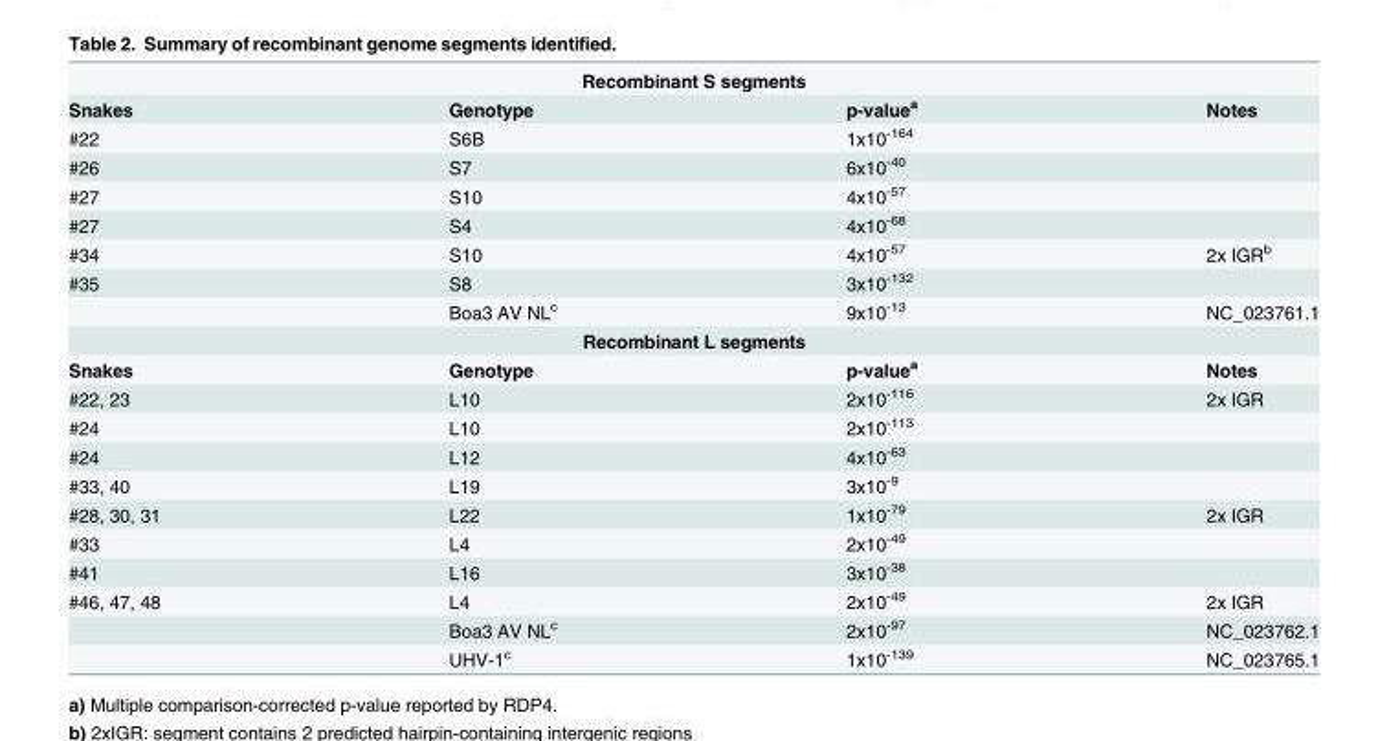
<table><tbody><tr><td colspan="4">Recombinant S segments</td></tr><tr><td>Snakes</td><td>Genotype</td><td>p-value<sup>a</sup></td><td>Notes</td></tr><tr><td>#22</td><td>S6B</td><td>1x10<sup>-164</sup></td><td></td></tr><tr><td>#26</td><td>S7</td><td>6x10<sup>-40</sup></td><td></td></tr><tr><td>#27</td><td>S10</td><td>4x10<sup>-57</sup></td><td></td></tr><tr><td>#27</td><td>S4</td><td>4x10<sup>-68</sup></td><td></td></tr><tr><td>#34</td><td>S10</td><td>4x10<sup>-57</sup></td><td>2x IGR<sup>b</sup></td></tr><tr><td rowspan="2">#35</td><td>S8</td><td>3x10<sup>-132</sup></td><td></td></tr><tr><td>Boa3 AV NL<sup>c</sup></td><td>9x10<sup>-13</sup></td><td>NC_023761.1</td></tr><tr><td colspan="4">Recombinant L segments</td></tr><tr><td>Snakes</td><td>Genotype</td><td>p-value<sup>a</sup></td><td>Notes</td></tr><tr><td>#22, 23</td><td>L10</td><td>2x10<sup>-116</sup></td><td>2x IGR</td></tr><tr><td>#24</td><td>L10</td><td>2x10<sup>-113</sup></td><td></td></tr><tr><td>#24</td><td>L12</td><td>4x10<sup>-63</sup></td><td></td></tr><tr><td>#33, 40</td><td>L19</td><td>3x10<sup>-9</sup></td><td></td></tr><tr><td>#28, 30, 31</td><td>L22</td><td>1x10<sup>-79</sup></td><td>2x IGR</td></tr><tr><td>#33</td><td>L4</td><td>2x10<sup>-49</sup></td><td></td></tr><tr><td>#41</td><td>L16</td><td>3x10<sup>-38</sup></td><td></td></tr><tr><td rowspan="3">#46, 47, 48</td><td>L4</td><td>2x10<sup>-49</sup></td><td>2x IGR</td></tr><tr><td>Boa3 AV NL<sup>c</sup></td><td>2x10<sup>-97</sup></td><td>NC_023762.1</td></tr><tr><td>UHV-1<sup>c</sup></td><td>1x10<sup>-139</sup></td><td>NC_023765.1</td></tr></tbody></table>